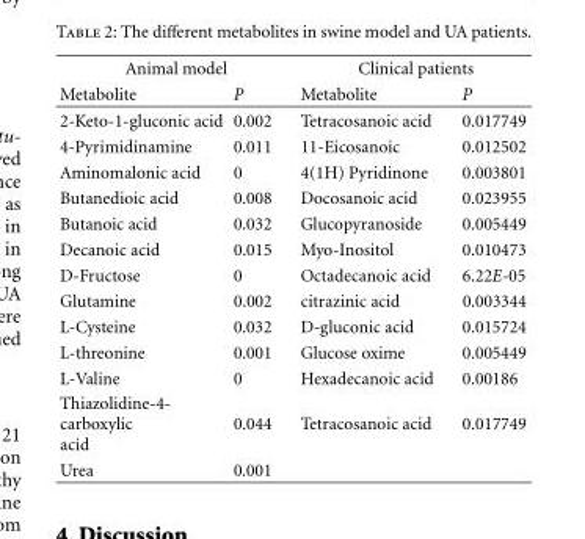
<table><thead><tr><td colspan="2">Animal model</td><td colspan="2">Clinical patients</td></tr><tr><td>Metabolite</td><td>P</td><td>Metabolite</td><td>P</td></tr></thead><tbody><tr><td>2-Keto-1-gluconic acid</td><td>0.002</td><td>Tetracosanoic acid</td><td>0.017749</td></tr><tr><td>4-Pyrimidinamine</td><td>0.011</td><td>11-Eicosanoic</td><td>0.012502</td></tr><tr><td>Aminomalonic acid</td><td>0</td><td>4(1H) Pyridinone</td><td>0.003801</td></tr><tr><td>Butanedioic acid</td><td>0.008</td><td>Docosanoic acid</td><td>0.023955</td></tr><tr><td>Butanoic acid</td><td>0.032</td><td>Glucopyranoside</td><td>0.005449</td></tr><tr><td>Decanoic acid</td><td>0.015</td><td>Myo-Inositol</td><td>0.010473</td></tr><tr><td>D-Fructose</td><td>0</td><td>Octadecanoic acid</td><td>6.22E-05</td></tr><tr><td>Glutamine</td><td>0.002</td><td>citrazinic acid</td><td>0.003344</td></tr><tr><td>L-Cysteine</td><td>0.032</td><td>D-gluconic acid</td><td>0.015724</td></tr><tr><td>L-threonine</td><td>0.001</td><td>Glucose oxime</td><td>0.005449</td></tr><tr><td>L-Valine</td><td>0</td><td>Hexadecanoic acid</td><td>0.00186</td></tr><tr><td>Thiazolidine-4- carboxylic acid</td><td>0.044</td><td>Tetracosanoic acid</td><td>0.017749</td></tr><tr><td>Urea</td><td>0.001</td><td></td><td></td></tr></tbody></table>